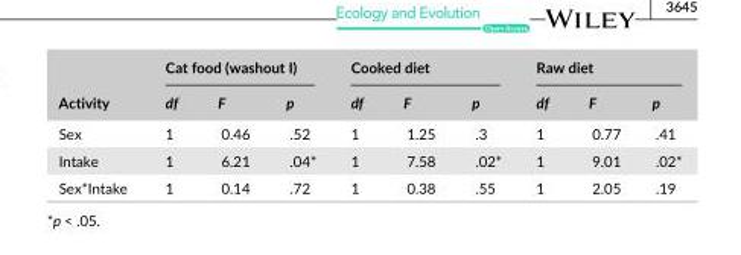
<table><thead><tr><td rowspan="2">Activity</td><td colspan="3">Cat food (washout I)</td><td colspan="3">Cooked diet</td><td colspan="3">Raw diet</td></tr><tr><td>df</td><td>F</td><td>p</td><td>df</td><td>F</td><td>p</td><td>df</td><td>F</td><td>p</td></tr></thead><tbody><tr><td>Sex</td><td>1</td><td>0.46</td><td>.52</td><td>1</td><td>1.25</td><td>.3</td><td>1</td><td>0.77</td><td>.41</td></tr><tr><td>Intake</td><td>1</td><td>6.21</td><td>.04*</td><td>1</td><td>7.58</td><td>.02*</td><td>1</td><td>9.01</td><td>.02*</td></tr><tr><td>Sex*Intake</td><td>1</td><td>0.14</td><td>.72</td><td>1</td><td>0.38</td><td>.55</td><td>1</td><td>2.05</td><td>.19</td></tr></tbody></table>